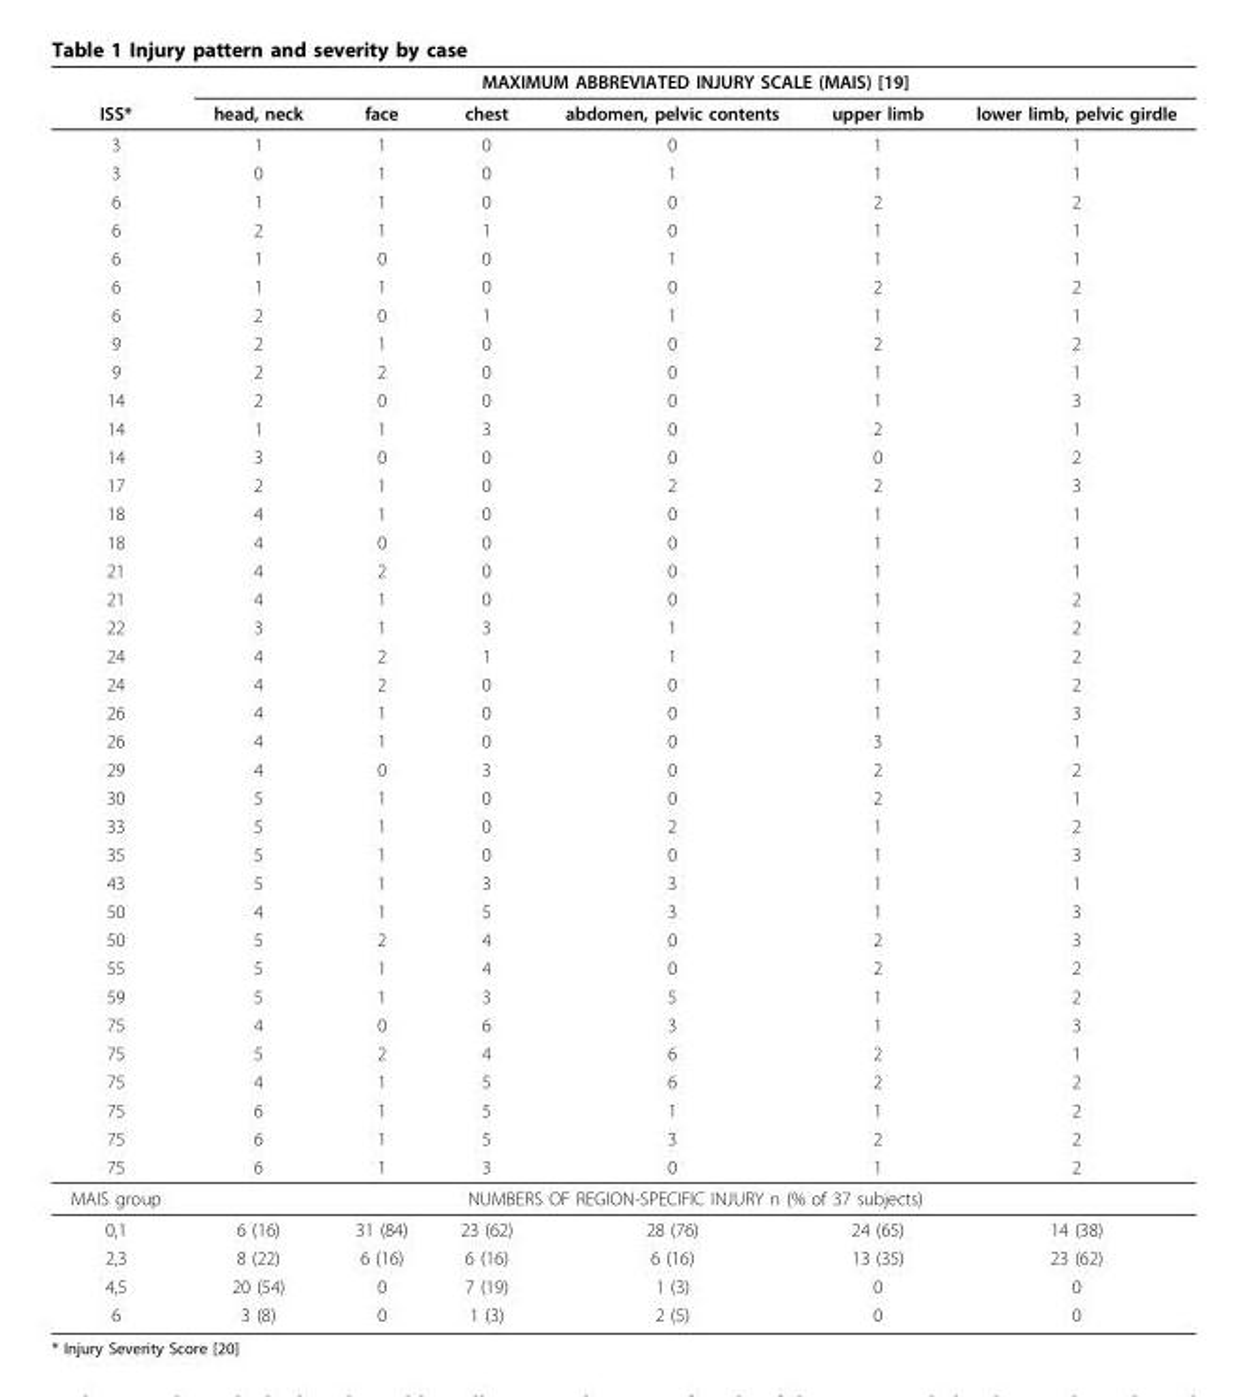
<table><thead><tr><td rowspan="2">ISS*</td><td colspan="6">MAXIMUM ABBREVIATED INJURY SCALE (MAIS) [19]</td></tr><tr><td>head, neck</td><td>face</td><td>chest</td><td>abdomen, pelvic contents</td><td>upper limb</td><td>lower limb, pelvic girdle</td></tr></thead><tbody><tr><td>3</td><td>1</td><td>1</td><td>0</td><td>0</td><td>1</td><td>1</td></tr><tr><td>3</td><td>0</td><td>1</td><td>0</td><td>1</td><td>1</td><td>1</td></tr><tr><td>6</td><td>1</td><td>1</td><td>0</td><td>0</td><td>2</td><td>2</td></tr><tr><td>6</td><td>2</td><td>1</td><td>1</td><td>0</td><td>1</td><td>1</td></tr><tr><td>6</td><td>1</td><td>0</td><td>0</td><td>1</td><td>1</td><td>1</td></tr><tr><td>6</td><td>1</td><td>1</td><td>0</td><td>0</td><td>2</td><td>2</td></tr><tr><td>6</td><td>2</td><td>0</td><td>1</td><td>1</td><td>1</td><td>1</td></tr><tr><td>9</td><td>2</td><td>1</td><td>0</td><td>0</td><td>2</td><td>2</td></tr><tr><td>9</td><td>2</td><td>2</td><td>0</td><td>0</td><td>1</td><td>1</td></tr><tr><td>14</td><td>2</td><td>0</td><td>0</td><td>0</td><td>1</td><td>3</td></tr><tr><td>14</td><td>1</td><td>1</td><td>3</td><td>0</td><td>2</td><td>1</td></tr><tr><td>14</td><td>3</td><td>0</td><td>0</td><td>0</td><td>0</td><td>2</td></tr><tr><td>17</td><td>2</td><td>1</td><td>0</td><td>2</td><td>2</td><td>3</td></tr><tr><td>18</td><td>4</td><td>1</td><td>0</td><td>0</td><td>1</td><td>1</td></tr><tr><td>18</td><td>4</td><td>0</td><td>0</td><td>0</td><td>1</td><td>1</td></tr><tr><td>21</td><td>4</td><td>2</td><td>0</td><td>0</td><td>1</td><td>1</td></tr><tr><td>21</td><td>4</td><td>1</td><td>0</td><td>0</td><td>1</td><td>2</td></tr><tr><td>22</td><td>3</td><td>1</td><td>3</td><td>1</td><td>1</td><td>2</td></tr><tr><td>24</td><td>4</td><td>2</td><td>1</td><td>1</td><td>1</td><td>2</td></tr><tr><td>24</td><td>4</td><td>2</td><td>0</td><td>0</td><td>1</td><td>2</td></tr><tr><td>26</td><td>4</td><td>1</td><td>0</td><td>0</td><td>1</td><td>3</td></tr><tr><td>26</td><td>4</td><td>1</td><td>0</td><td>0</td><td>3</td><td>1</td></tr><tr><td>29</td><td>4</td><td>0</td><td>3</td><td>0</td><td>2</td><td>2</td></tr><tr><td>30</td><td>5</td><td>1</td><td>0</td><td>0</td><td>2</td><td>1</td></tr><tr><td>33</td><td>5</td><td>1</td><td>0</td><td>2</td><td>1</td><td>2</td></tr><tr><td>35</td><td>5</td><td>1</td><td>0</td><td>0</td><td>1</td><td>3</td></tr><tr><td>43</td><td>5</td><td>1</td><td>3</td><td>3</td><td>1</td><td>1</td></tr><tr><td>50</td><td>4</td><td>1</td><td>5</td><td>3</td><td>1</td><td>3</td></tr><tr><td>50</td><td>5</td><td>2</td><td>4</td><td>0</td><td>2</td><td>3</td></tr><tr><td>55</td><td>5</td><td>1</td><td>4</td><td>0</td><td>2</td><td>2</td></tr><tr><td>59</td><td>5</td><td>1</td><td>3</td><td>5</td><td>1</td><td>2</td></tr><tr><td>75</td><td>4</td><td>0</td><td>6</td><td>3</td><td>1</td><td>3</td></tr><tr><td>75</td><td>5</td><td>2</td><td>4</td><td>6</td><td>2</td><td>1</td></tr><tr><td>75</td><td>4</td><td>1</td><td>5</td><td>6</td><td>2</td><td>2</td></tr><tr><td>75</td><td>6</td><td>1</td><td>5</td><td>1</td><td>1</td><td>2</td></tr><tr><td>75</td><td>6</td><td>1</td><td>5</td><td>3</td><td>2</td><td>2</td></tr><tr><td>75</td><td>6</td><td>1</td><td>3</td><td>0</td><td>1</td><td>2</td></tr><tr><td>MAIS group</td><td colspan="6">NUMBERS OF REGION-SPECIFIC INJURY n (% of 37 subjects)</td></tr><tr><td>0,1</td><td>6 (16)</td><td>31 (84)</td><td>23 (62)</td><td>28 (76)</td><td>24 (65)</td><td>14 (38)</td></tr><tr><td>2,3</td><td>8 (22)</td><td>6 (16)</td><td>6 (16)</td><td>6 (16)</td><td>13 (35)</td><td>23 (62)</td></tr><tr><td>4,5</td><td>20 (54)</td><td>0</td><td>7 (19)</td><td>1 (3)</td><td>0</td><td>0</td></tr><tr><td>6</td><td>3 (8)</td><td>0</td><td>1 (3)</td><td>2 (5)</td><td>0</td><td>0</td></tr></tbody></table>